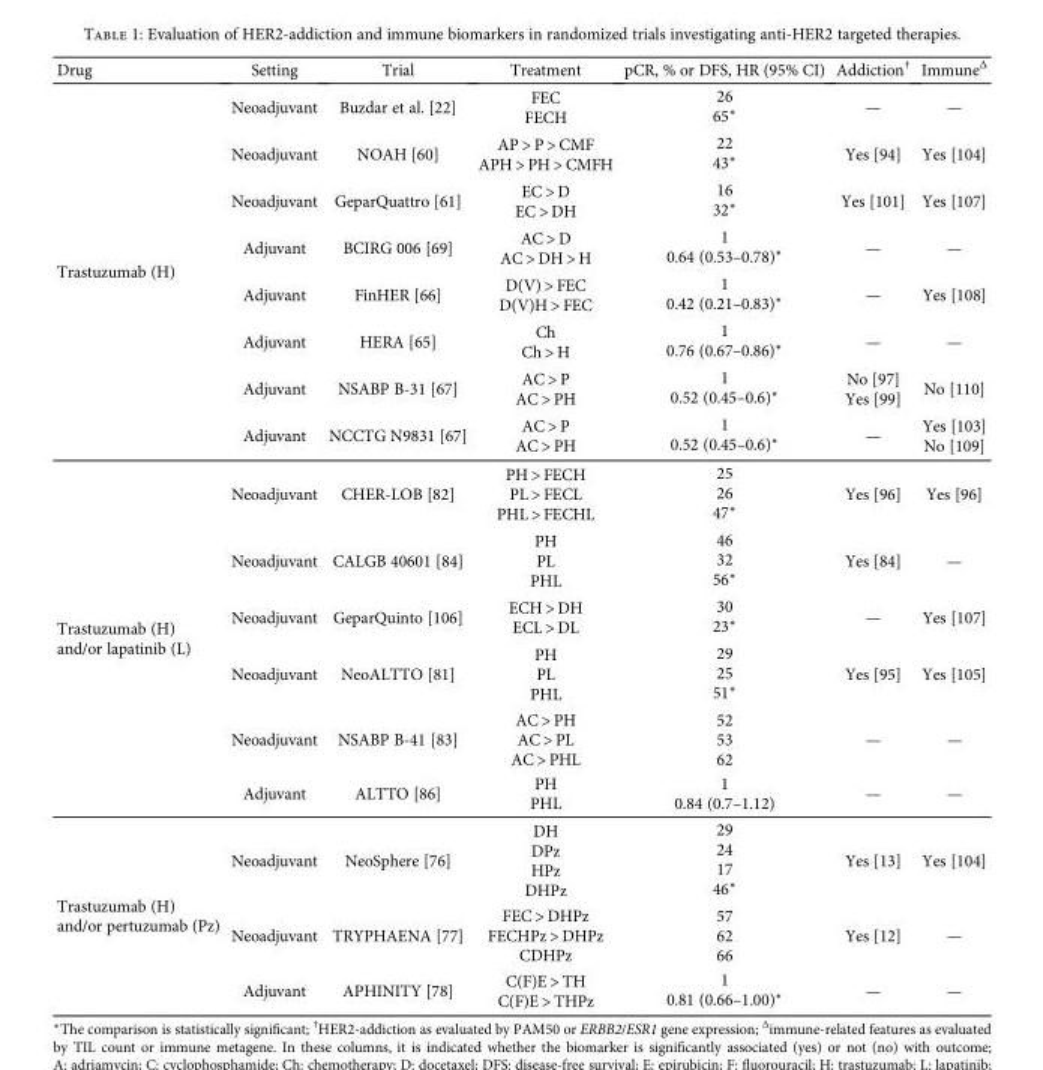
<table><thead><tr><td>Drug</td><td>Setting</td><td>Trial</td><td>Treatment</td><td>pCR, % or DFS, HR (95% CI)</td><td>Addiction<sup>†</sup></td><td>Immune<sup>Δ</sup></td></tr></thead><tbody><tr><td rowspan="8">Trastuzumab (H)</td><td>Neoadjuvant</td><td>Buzdar et al. [22]</td><td>FEC FECH</td><td>26 65∗</td><td>—</td><td>—</td></tr><tr><td>Neoadjuvant</td><td>NOAH [60]</td><td>AP &gt; P &gt; CMF APH &gt; PH &gt; CMFH</td><td>22 43∗</td><td>Yes [94]</td><td>Yes [104]</td></tr><tr><td>Neoadjuvant</td><td>GeparQuattro [61]</td><td>EC &gt; D EC &gt; DH</td><td>16 32∗</td><td>Yes [101]</td><td>Yes [107]</td></tr><tr><td>Adjuvant</td><td>BCIRG 006 [69]</td><td>AC &gt; D AC &gt; DH &gt; H</td><td>1 0.64 (0.53–0.78)∗</td><td>—</td><td>—</td></tr><tr><td>Adjuvant</td><td>FinHER [66]</td><td>D(V) &gt; FEC D(V)H &gt; FEC</td><td>1 0.42 (0.21–0.83)∗</td><td>—</td><td>Yes [108]</td></tr><tr><td>Adjuvant</td><td>HERA [65]</td><td>Ch Ch &gt; H</td><td>1 0.76 (0.67–0.86)∗</td><td>—</td><td>—</td></tr><tr><td>Adjuvant</td><td>NSABP B-31 [67]</td><td>AC &gt; P AC &gt; PH</td><td>1 0.52 (0.45–0.6)∗</td><td>No [97] Yes [99]</td><td>No [110]</td></tr><tr><td>Adjuvant</td><td>NCCTG N9831 [67]</td><td>AC &gt; P AC &gt; PH</td><td>1 0.52 (0.45–0.6)∗</td><td>—</td><td>Yes [103] No [109]</td></tr><tr><td rowspan="6">Trastuzumab (H) and/or lapatinib (L)</td><td>Neoadjuvant</td><td>CHER-LOB [82]</td><td>PH &gt; FECH PL &gt; FECL PHL &gt; FECHL</td><td>25 26 47∗</td><td>Yes [96]</td><td>Yes [96]</td></tr><tr><td>Neoadjuvant</td><td>CALGB 40601 [84]</td><td>PH PL PHL</td><td>46 32 56∗</td><td>Yes [84]</td><td>—</td></tr><tr><td>Neoadjuvant</td><td>GeparQuinto [106]</td><td>ECH &gt; DH ECL &gt; DL</td><td>30 23∗</td><td>—</td><td>Yes [107]</td></tr><tr><td>Neoadjuvant</td><td>NeoALTTO [81]</td><td>PH PL PHL</td><td>29 25 51∗</td><td>Yes [95]</td><td>Yes [105]</td></tr><tr><td>Neoadjuvant</td><td>NSABP B-41 [83]</td><td>AC &gt; PH AC &gt; PL AC &gt; PHL</td><td>52 53 62</td><td>—</td><td>—</td></tr><tr><td>Adjuvant</td><td>ALTTO [86]</td><td>PH PHL</td><td>1 0.84 (0.7–1.12)</td><td>—</td><td>—</td></tr><tr><td rowspan="3">Trastuzumab (H) and/or pertuzumab (Pz)</td><td>Neoadjuvant</td><td>NeoSphere [76]</td><td>DH DPz HPz DHPz</td><td>29 24 17 46∗</td><td>Yes [13]</td><td>Yes [104]</td></tr><tr><td>Neoadjuvant</td><td>TRYPHAENA [77]</td><td>FEC &gt; DHPz FECHPz &gt; DHPz CDHPz</td><td>57 62 66</td><td>Yes [12]</td><td>—</td></tr><tr><td>Adjuvant</td><td>APHINITY [78]</td><td>C(F)E &gt; TH C(F)E &gt; THPz</td><td>1 0.81 (0.66–1.00)∗</td><td>—</td><td>—</td></tr></tbody></table>